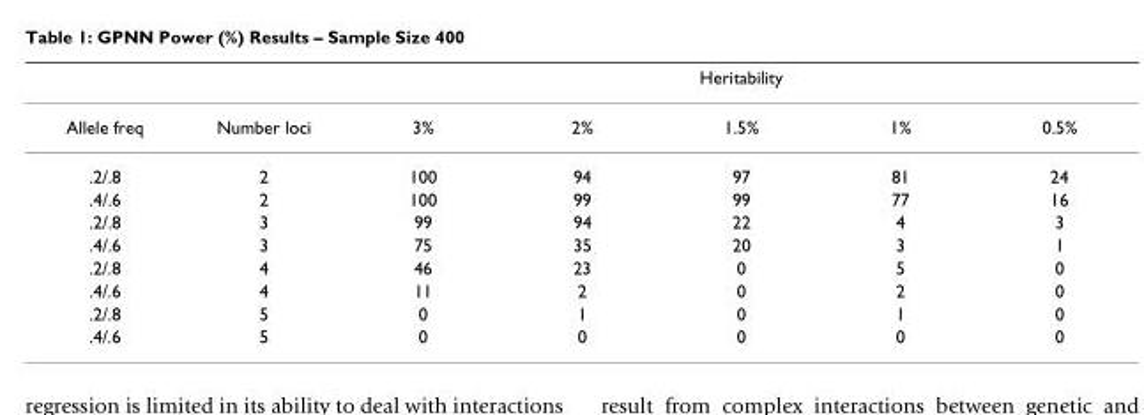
<table><thead><tr><td rowspan="2">Allele freq</td><td rowspan="2">Number loci</td><td colspan="5">Heritability</td></tr><tr><td>3%</td><td>2%</td><td>1.5%</td><td>1%</td><td>0.5%</td></tr></thead><tbody><tr><td>.2/.8</td><td>2</td><td>100</td><td>94</td><td>97</td><td>81</td><td>24</td></tr><tr><td>.4/.6</td><td>2</td><td>100</td><td>99</td><td>99</td><td>77</td><td>16</td></tr><tr><td>.2/.8</td><td>3</td><td>99</td><td>94</td><td>22</td><td>4</td><td>3</td></tr><tr><td>.4/.6</td><td>3</td><td>75</td><td>35</td><td>20</td><td>3</td><td>1</td></tr><tr><td>.2/.8</td><td>4</td><td>46</td><td>23</td><td>0</td><td>5</td><td>0</td></tr><tr><td>.4/.6</td><td>4</td><td>11</td><td>2</td><td>0</td><td>2</td><td>0</td></tr><tr><td>.2/.8</td><td>5</td><td>0</td><td>1</td><td>0</td><td>1</td><td>0</td></tr><tr><td>.4/.6</td><td>5</td><td>0</td><td>0</td><td>0</td><td>0</td><td>0</td></tr></tbody></table>